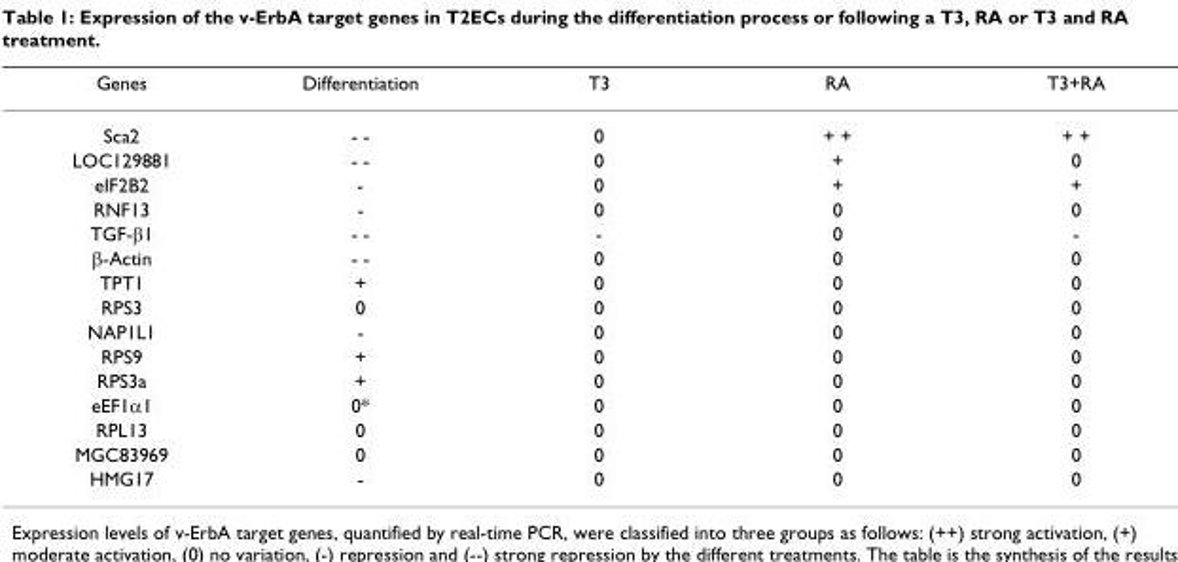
<table><thead><tr><td>Genes</td><td>Differentiation</td><td>T3</td><td>RA</td><td>T3+RA</td></tr></thead><tbody><tr><td>Sca2</td><td>- -</td><td>0</td><td>+ +</td><td>+ +</td></tr><tr><td>LOC129881</td><td>- -</td><td>0</td><td>+</td><td>0</td></tr><tr><td>eIF2B2</td><td>-</td><td>0</td><td>+</td><td>+</td></tr><tr><td>RNF13</td><td>-</td><td>0</td><td>0</td><td>0</td></tr><tr><td>TGF-β1</td><td>- -</td><td>-</td><td>0</td><td>-</td></tr><tr><td>β-Actin</td><td>- -</td><td>0</td><td>0</td><td>0</td></tr><tr><td>TPT1</td><td>+</td><td>0</td><td>0</td><td>0</td></tr><tr><td>RPS3</td><td>0</td><td>0</td><td>0</td><td>0</td></tr><tr><td>NAP1L1</td><td>-</td><td>0</td><td>0</td><td>0</td></tr><tr><td>RPS9</td><td>+</td><td>0</td><td>0</td><td>0</td></tr><tr><td>RPS3a</td><td>+</td><td>0</td><td>0</td><td>0</td></tr><tr><td>eEF1α1</td><td>0*</td><td>0</td><td>0</td><td>0</td></tr><tr><td>RPL13</td><td>0</td><td>0</td><td>0</td><td>0</td></tr><tr><td>MGC83969</td><td>0</td><td>0</td><td>0</td><td>0</td></tr><tr><td>HMG17</td><td>-</td><td>0</td><td>0</td><td>0</td></tr></tbody></table>